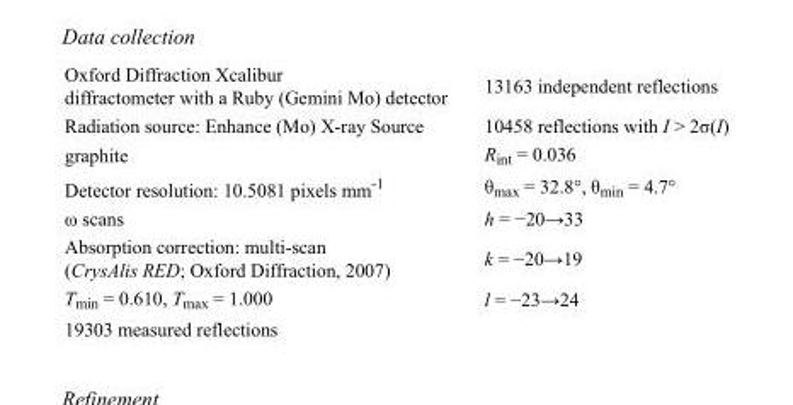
<table><tbody><tr><td>Oxford Diffraction Xcalibur diffractometer with a Ruby (Gemini Mo) detector</td><td>13163 independent reflections</td></tr><tr><td>Radiation source: Enhance (Mo) X-ray Source</td><td>10458 reflections with I &gt; 2σ(I)</td></tr><tr><td>graphite</td><td>R<sub>int</sub> = 0.036</td></tr><tr><td>Detector resolution: 10.5081 pixels mm<sup>-1</sup></td><td>θ<sub>max</sub> = 32.8°, θ<sub>min</sub> = 4.7°</td></tr><tr><td>ω scans</td><td>h = −20→33</td></tr><tr><td>Absorption correction: multi-scan (CrysAlis RED; Oxford Diffraction, 2007)</td><td>k = −20→19</td></tr><tr><td>T<sub>min</sub> = 0.610, T<sub>max</sub> = 1.000</td><td>l = −23→24</td></tr><tr><td>19303 measured reflections</td><td></td></tr></tbody></table>